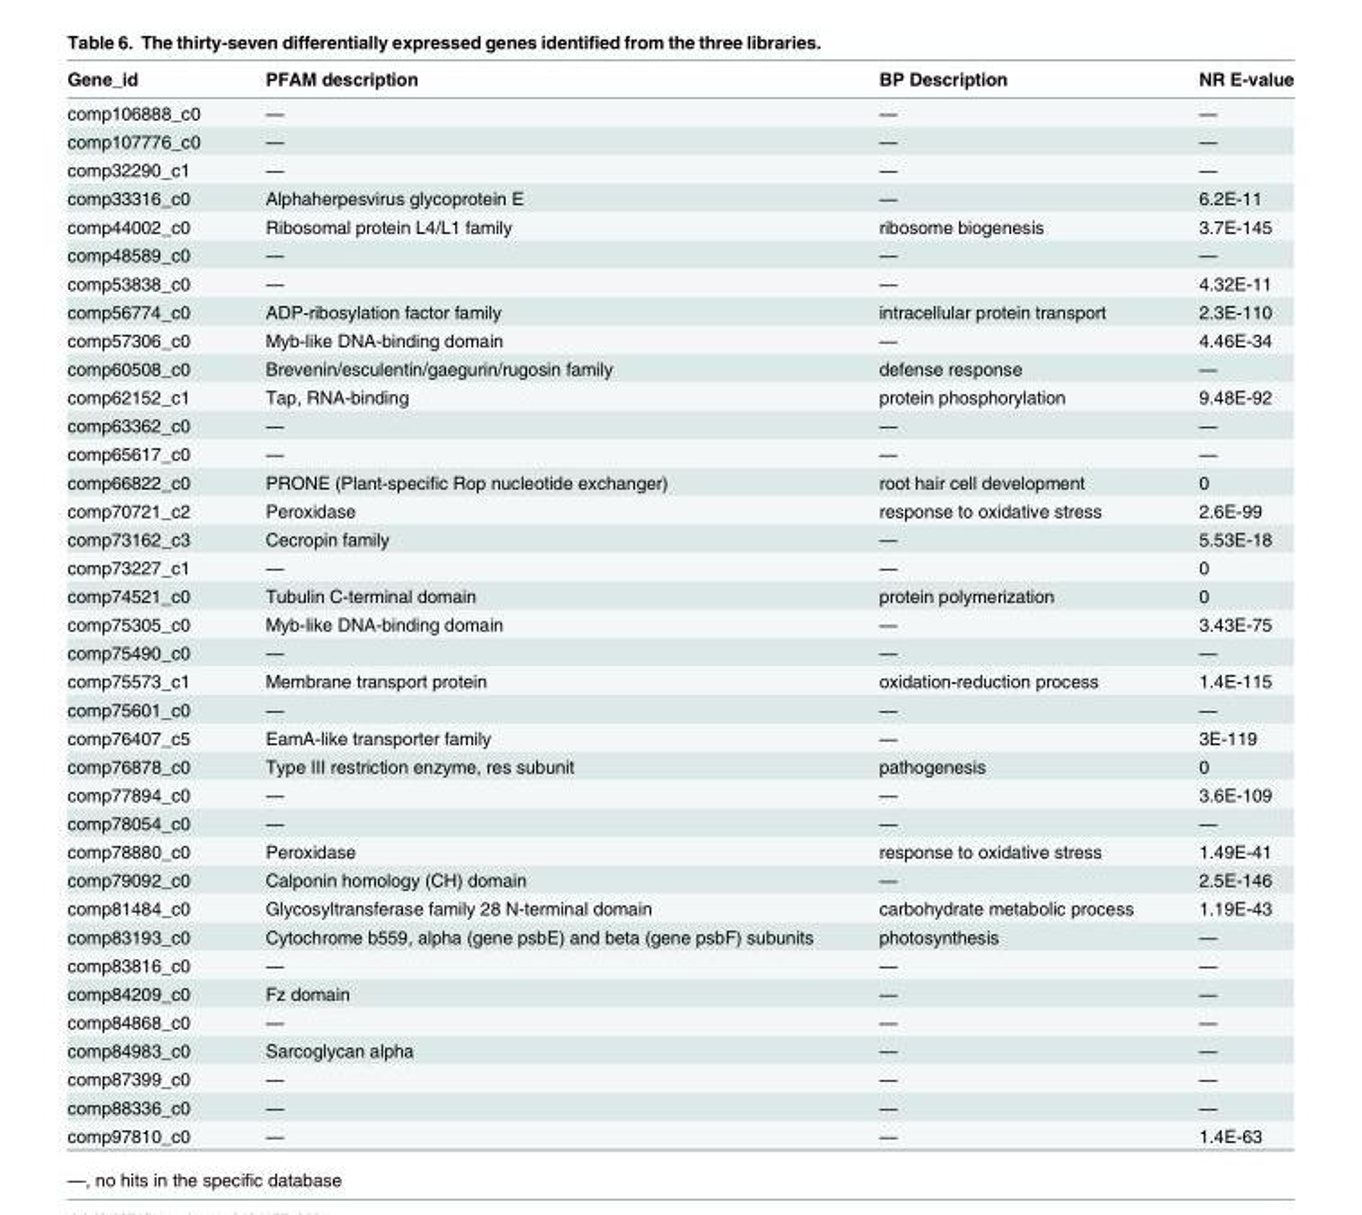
<table><thead><tr><td>Gene_id</td><td>PFAM description</td><td>BP Description</td><td>NR E-value</td></tr></thead><tbody><tr><td>comp106888_c0</td><td>—</td><td>—</td><td>—</td></tr><tr><td>comp107776_c0</td><td>—</td><td>—</td><td>—</td></tr><tr><td>comp32290_c1</td><td>—</td><td>—</td><td>—</td></tr><tr><td>comp33316_c0</td><td>Alphaherpesvirus glycoprotein E</td><td>—</td><td>6.2E-11</td></tr><tr><td>comp44002_c0</td><td>Ribosomal protein L4/L1 family</td><td>ribosome biogenesis</td><td>3.7E-145</td></tr><tr><td>comp48589_c0</td><td>—</td><td>—</td><td>—</td></tr><tr><td>comp53838_c0</td><td>—</td><td>—</td><td>4.32E-11</td></tr><tr><td>comp56774_c0</td><td>ADP-ribosylation factor family</td><td>intracellular protein transport</td><td>2.3E-110</td></tr><tr><td>comp57306_c0</td><td>Myb-like DNA-binding domain</td><td>—</td><td>4.46E-34</td></tr><tr><td>comp60508_c0</td><td>Brevenin/esculentin/gaegurin/rugosin family</td><td>defense response</td><td>—</td></tr><tr><td>comp62152_c1</td><td>Tap, RNA-binding</td><td>protein phosphorylation</td><td>9.48E-92</td></tr><tr><td>comp63362_c0</td><td>—</td><td>—</td><td>—</td></tr><tr><td>comp65617_c0</td><td>—</td><td>—</td><td>—</td></tr><tr><td>comp66822_c0</td><td>PRONE (Plant-specific Rop nucleotide exchanger)</td><td>root hair cell development</td><td>0</td></tr><tr><td>comp70721_c2</td><td>Peroxidase</td><td>response to oxidative stress</td><td>2.6E-99</td></tr><tr><td>comp73162_c3</td><td>Cecropin family</td><td>—</td><td>5.53E-18</td></tr><tr><td>comp73227_c1</td><td>—</td><td>—</td><td>0</td></tr><tr><td>comp74521_c0</td><td>Tubulin C-terminal domain</td><td>protein polymerization</td><td>0</td></tr><tr><td>comp75305_c0</td><td>Myb-like DNA-binding domain</td><td>—</td><td>3.43E-75</td></tr><tr><td>comp75490_c0</td><td>—</td><td>—</td><td>—</td></tr><tr><td>comp75573_c1</td><td>Membrane transport protein</td><td>oxidation-reduction process</td><td>1.4E-115</td></tr><tr><td>comp75601_c0</td><td>—</td><td>—</td><td>—</td></tr><tr><td>comp76407_c5</td><td>EamA-like transporter family</td><td>—</td><td>3E-119</td></tr><tr><td>comp76878_c0</td><td>Type III restriction enzyme, res subunit</td><td>pathogenesis</td><td>0</td></tr><tr><td>comp77894_c0</td><td>—</td><td>—</td><td>3.6E-109</td></tr><tr><td>comp78054_c0</td><td>—</td><td>—</td><td>—</td></tr><tr><td>comp78880_c0</td><td>Peroxidase</td><td>response to oxidative stress</td><td>1.49E-41</td></tr><tr><td>comp79092_c0</td><td>Calponin homology (CH) domain</td><td>—</td><td>2.5E-146</td></tr><tr><td>comp81484_c0</td><td>Glycosyltransferase family 28 N-terminal domain</td><td>carbohydrate metabolic process</td><td>1.19E-43</td></tr><tr><td>comp83193_c0</td><td>Cytochrome b559, alpha (gene psbE) and beta (gene psbF) subunits</td><td>photosynthesis</td><td>—</td></tr><tr><td>comp83816_c0</td><td>—</td><td>—</td><td>—</td></tr><tr><td>comp84209_c0</td><td>Fz domain</td><td>—</td><td>—</td></tr><tr><td>comp84868_c0</td><td>—</td><td>—</td><td>—</td></tr><tr><td>comp84983_c0</td><td>Sarcoglycan alpha</td><td>—</td><td>—</td></tr><tr><td>comp87399_c0</td><td>—</td><td>—</td><td>—</td></tr><tr><td>comp88336_c0</td><td>—</td><td>—</td><td>—</td></tr><tr><td>comp97810_c0</td><td>—</td><td>—</td><td>1.4E-63</td></tr></tbody></table>